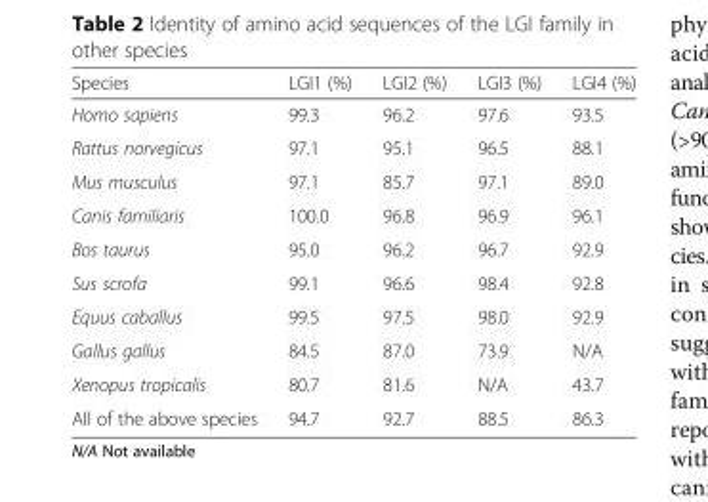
<table><thead><tr><td>Species</td><td>LGI1 (%)</td><td>LGI2 (%)</td><td>LGI3 (%)</td><td>LGI4 (%)</td></tr></thead><tbody><tr><td>Homo sapiens</td><td>99.3</td><td>96.2</td><td>97.6</td><td>93.5</td></tr><tr><td>Rattus norvegicus</td><td>97.1</td><td>95.1</td><td>96.5</td><td>88.1</td></tr><tr><td>Mus musculus</td><td>97.1</td><td>85.7</td><td>97.1</td><td>89.0</td></tr><tr><td>Canis familiaris</td><td>100.0</td><td>96.8</td><td>96.9</td><td>96.1</td></tr><tr><td>Bos taurus</td><td>95.0</td><td>96.2</td><td>96.7</td><td>92.9</td></tr><tr><td>Sus scrofa</td><td>99.1</td><td>96.6</td><td>98.4</td><td>92.8</td></tr><tr><td>Equus caballus</td><td>99.5</td><td>97.5</td><td>98.0</td><td>92.9</td></tr><tr><td>Gallus gallus</td><td>84.5</td><td>87.0</td><td>73.9</td><td>N/A</td></tr><tr><td>Xenopus tropicalis</td><td>80.7</td><td>81.6</td><td>N/A</td><td>43.7</td></tr><tr><td>All of the above species</td><td>94.7</td><td>92.7</td><td>88.5</td><td>86.3</td></tr></tbody></table>